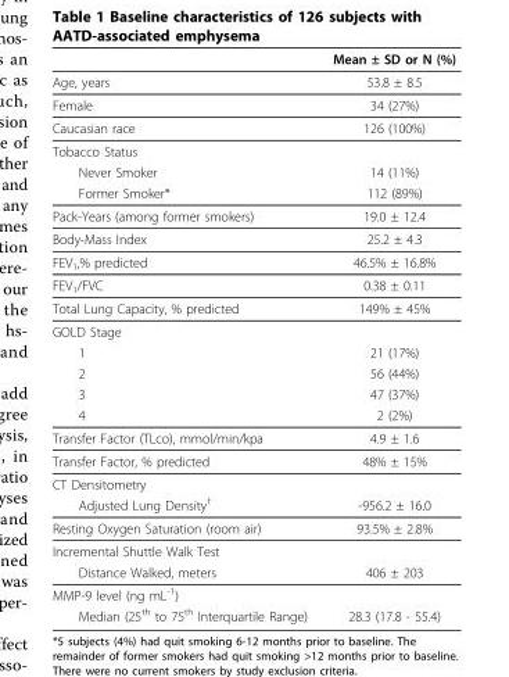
<table><thead><tr><td></td><td>Mean ± SD or N (%)</td></tr></thead><tbody><tr><td>Age, years</td><td>53.8 ± 8.5</td></tr><tr><td>Female</td><td>34 (27%)</td></tr><tr><td>Caucasian race</td><td>126 (100%)</td></tr><tr><td colspan="2">Tobacco Status</td></tr><tr><td>Never Smoker</td><td>14 (11%)</td></tr><tr><td>Former Smoker*</td><td>112 (89%)</td></tr><tr><td>Pack-Years (among former smokers)</td><td>19.0 ± 12.4</td></tr><tr><td>Body-Mass Index</td><td>25.2 ± 4.3</td></tr><tr><td>FEV<sub>1</sub>,% predicted</td><td>46.5% ± 16.8%</td></tr><tr><td>FEV<sub>1</sub>/FVC</td><td>0.38 ± 0.11</td></tr><tr><td>Total Lung Capacity, % predicted</td><td>149% ± 45%</td></tr><tr><td colspan="2">GOLD Stage</td></tr><tr><td>1</td><td>21 (17%)</td></tr><tr><td>2</td><td>56 (44%)</td></tr><tr><td>3</td><td>47 (37%)</td></tr><tr><td>4</td><td>2 (2%)</td></tr><tr><td>Transfer Factor (TLco), mmol/min/kpa</td><td>4.9 ± 1.6</td></tr><tr><td>Transfer Factor, % predicted</td><td>48% ± 15%</td></tr><tr><td colspan="2">CT Densitometry</td></tr><tr><td>Adjusted Lung Density<sup>†</sup></td><td>-956.2 ± 16.0</td></tr><tr><td>Resting Oxygen Saturation (room air)</td><td>93.5% ± 2.8%</td></tr><tr><td colspan="2">Incremental Shuttle Walk Test</td></tr><tr><td>Distance Walked, meters</td><td>406 ± 203</td></tr><tr><td colspan="2">MMP-9 level (ng mL<sup>-1</sup>)</td></tr><tr><td>Median (25<sup>th</sup> to 75<sup>th</sup> Interquartile Range)</td><td>28.3 (17.8 - 55.4)</td></tr></tbody></table>